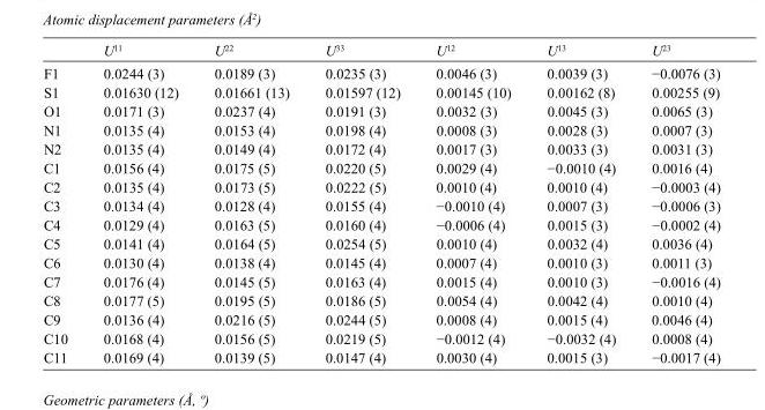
<table><thead><tr><td></td><td>U<sup>11</sup></td><td>U<sup>22</sup></td><td>U<sup>33</sup></td><td>U<sup>12</sup></td><td>U<sup>13</sup></td><td>U<sup>23</sup></td></tr></thead><tbody><tr><td>F1</td><td>0.0244 (3)</td><td>0.0189 (3)</td><td>0.0235 (3)</td><td>0.0046 (3)</td><td>0.0039 (3)</td><td>−0.0076 (3)</td></tr><tr><td>S1</td><td>0.01630 (12)</td><td>0.01661 (13)</td><td>0.01597 (12)</td><td>0.00145 (10)</td><td>0.00162 (8)</td><td>0.00255 (9)</td></tr><tr><td>O1</td><td>0.0171 (3)</td><td>0.0237 (4)</td><td>0.0191 (3)</td><td>0.0032 (3)</td><td>0.0045 (3)</td><td>0.0065 (3)</td></tr><tr><td>N1</td><td>0.0135 (4)</td><td>0.0153 (4)</td><td>0.0198 (4)</td><td>0.0008 (3)</td><td>0.0028 (3)</td><td>0.0007 (3)</td></tr><tr><td>N2</td><td>0.0135 (4)</td><td>0.0149 (4)</td><td>0.0172 (4)</td><td>0.0017 (3)</td><td>0.0033 (3)</td><td>0.0031 (3)</td></tr><tr><td>C1</td><td>0.0156 (4)</td><td>0.0175 (5)</td><td>0.0220 (5)</td><td>0.0029 (4)</td><td>−0.0010 (4)</td><td>0.0016 (4)</td></tr><tr><td>C2</td><td>0.0135 (4)</td><td>0.0173 (5)</td><td>0.0222 (5)</td><td>0.0010 (4)</td><td>0.0010 (4)</td><td>−0.0003 (4)</td></tr><tr><td>C3</td><td>0.0134 (4)</td><td>0.0128 (4)</td><td>0.0155 (4)</td><td>−0.0010 (4)</td><td>0.0007 (3)</td><td>−0.0006 (3)</td></tr><tr><td>C4</td><td>0.0129 (4)</td><td>0.0163 (5)</td><td>0.0160 (4)</td><td>−0.0006 (4)</td><td>0.0015 (3)</td><td>−0.0002 (4)</td></tr><tr><td>C5</td><td>0.0141 (4)</td><td>0.0164 (5)</td><td>0.0254 (5)</td><td>0.0010 (4)</td><td>0.0032 (4)</td><td>0.0036 (4)</td></tr><tr><td>C6</td><td>0.0130 (4)</td><td>0.0138 (4)</td><td>0.0145 (4)</td><td>0.0007 (4)</td><td>0.0010 (3)</td><td>0.0011 (3)</td></tr><tr><td>C7</td><td>0.0176 (4)</td><td>0.0145 (5)</td><td>0.0163 (4)</td><td>0.0015 (4)</td><td>0.0010 (3)</td><td>−0.0016 (4)</td></tr><tr><td>C8</td><td>0.0177 (5)</td><td>0.0195 (5)</td><td>0.0186 (5)</td><td>0.0054 (4)</td><td>0.0042 (4)</td><td>0.0010 (4)</td></tr><tr><td>C9</td><td>0.0136 (4)</td><td>0.0216 (5)</td><td>0.0244 (5)</td><td>0.0008 (4)</td><td>0.0015 (4)</td><td>0.0046 (4)</td></tr><tr><td>C10</td><td>0.0168 (4)</td><td>0.0156 (5)</td><td>0.0219 (5)</td><td>−0.0012 (4)</td><td>−0.0032 (4)</td><td>0.0008 (4)</td></tr><tr><td>C11</td><td>0.0169 (4)</td><td>0.0139 (5)</td><td>0.0147 (4)</td><td>0.0030 (4)</td><td>0.0015 (3)</td><td>−0.0017 (4)</td></tr></tbody></table>